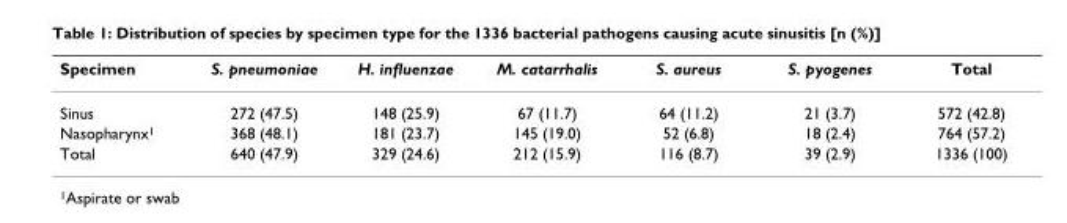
<table><thead><tr><td>Specimen</td><td>S. pneumoniae</td><td>H. influenzae</td><td>M. catarrhalis</td><td>S. aureus</td><td>S. pyogenes</td><td>Total</td></tr></thead><tbody><tr><td>Sinus</td><td>272 (47.5)</td><td>148 (25.9)</td><td>67 (11.7)</td><td>64 (11.2)</td><td>21 (3.7)</td><td>572 (42.8)</td></tr><tr><td>Nasopharynx<sup>1</sup></td><td>368 (48.1)</td><td>181 (23.7)</td><td>145 (19.0)</td><td>52 (6.8)</td><td>18 (2.4)</td><td>764 (57.2)</td></tr><tr><td>Total</td><td>640 (47.9)</td><td>329 (24.6)</td><td>212 (15.9)</td><td>116 (8.7)</td><td>39 (2.9)</td><td>1336 (100)</td></tr></tbody></table>